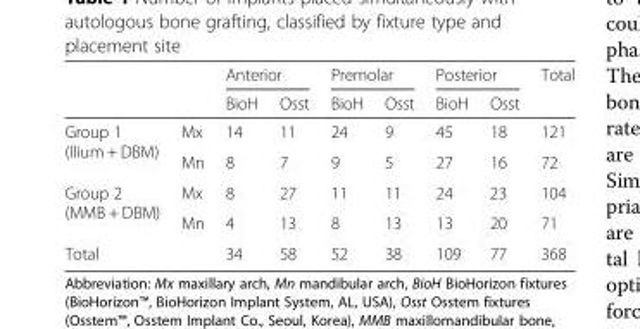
<table><thead><tr><td rowspan="2"></td><td rowspan="2"></td><td colspan="2">Anterior</td><td colspan="2">Premolar</td><td colspan="2">Posterior</td><td rowspan="2">Total</td></tr><tr><td>BioH</td><td>Osst</td><td>BioH</td><td>Osst</td><td>BioH</td><td>Osst</td></tr></thead><tbody><tr><td rowspan="2">Group 1 (Ilium + DBM)</td><td>Mx</td><td>14</td><td>11</td><td>24</td><td>9</td><td>45</td><td>18</td><td>121</td></tr><tr><td>Mn</td><td>8</td><td>7</td><td>9</td><td>5</td><td>27</td><td>16</td><td>72</td></tr><tr><td rowspan="2">Group 2 (MMB + DBM)</td><td>Mx</td><td>8</td><td>27</td><td>11</td><td>11</td><td>24</td><td>23</td><td>104</td></tr><tr><td>Mn</td><td>4</td><td>13</td><td>8</td><td>13</td><td>13</td><td>20</td><td>71</td></tr><tr><td>Total</td><td></td><td>34</td><td>58</td><td>52</td><td>38</td><td>109</td><td>77</td><td>368</td></tr></tbody></table>